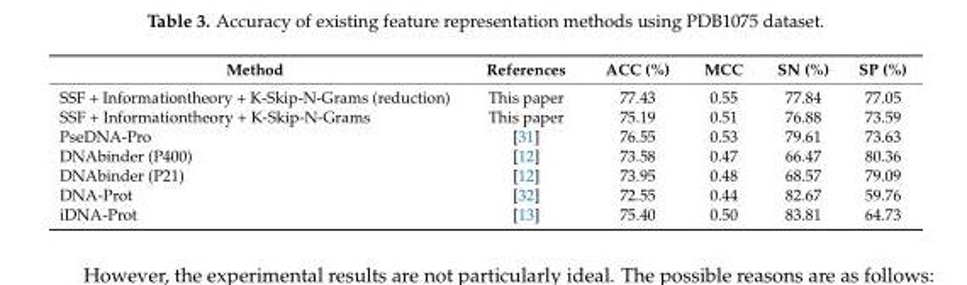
<table><thead><tr><td>Method</td><td>References</td><td>ACC (%)</td><td>MCC</td><td>SN (%)</td><td>SP (%)</td></tr></thead><tbody><tr><td>SSF + Informationtheory + K-Skip-N-Grams (reduction)</td><td>This paper</td><td>77.43</td><td>0.55</td><td>77.84</td><td>77.05</td></tr><tr><td>SSF + Informationtheory + K-Skip-N-Grams</td><td>This paper</td><td>75.19</td><td>0.51</td><td>76.88</td><td>73.59</td></tr><tr><td>PseDNA-Pro</td><td>[31]</td><td>76.55</td><td>0.53</td><td>79.61</td><td>73.63</td></tr><tr><td>DNAbinder (P400)</td><td>[12]</td><td>73.58</td><td>0.47</td><td>66.47</td><td>80.36</td></tr><tr><td>DNAbinder (P21)</td><td>[12]</td><td>73.95</td><td>0.48</td><td>68.57</td><td>79.09</td></tr><tr><td>DNA-Prot</td><td>[32]</td><td>72.55</td><td>0.44</td><td>82.67</td><td>59.76</td></tr><tr><td>iDNA-Prot</td><td>[13]</td><td>75.40</td><td>0.50</td><td>83.81</td><td>64.73</td></tr></tbody></table>